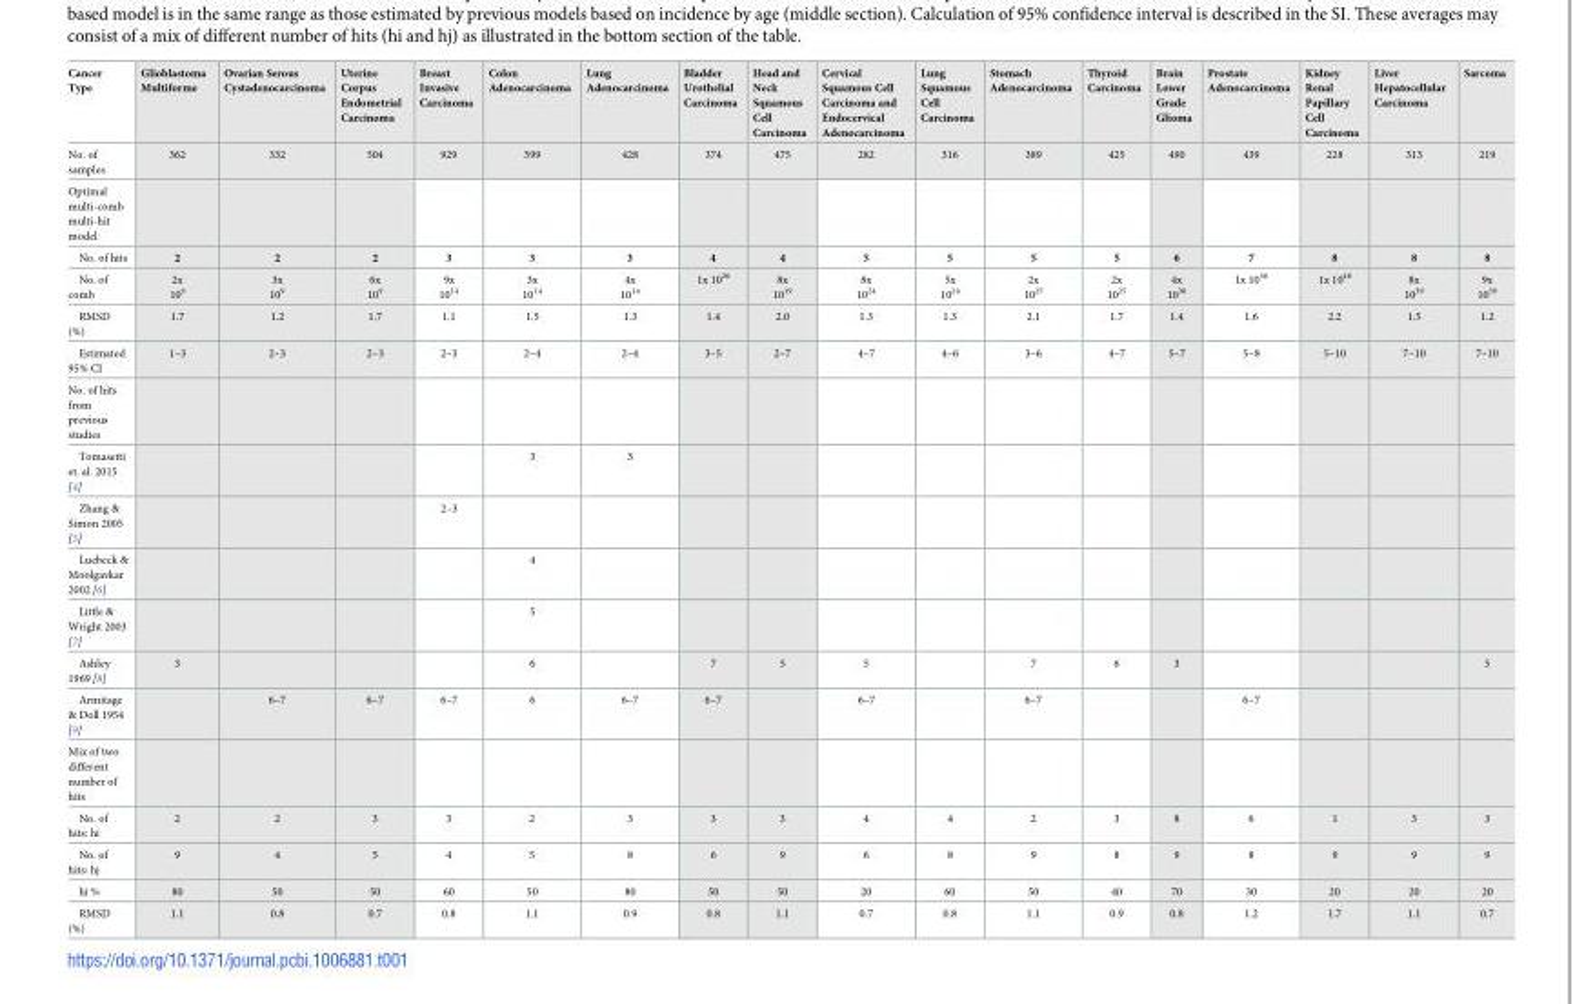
<table><thead><tr><td>Cancer Type</td><td>Glioblastoma Multiforme</td><td>Ovarian Serous Cystadenocarcinoma</td><td>Uterine Corpus Endometrial Carcinoma</td><td>Breast Invasive Carcinoma</td><td>Colon Adenocarcinoma</td><td>Lung Adenocarcinoma</td><td>Bladder Urothelial Carcinoma</td><td>Head and Neck Squamous Cell Carcinoma</td><td>Cervical Squamous Cell Carcinoma and Endocervical Adenocarcinoma</td><td>Lung Squamous Cell Carcinoma</td><td>Stomach Adenocarcinoma</td><td>Thyroid Carcinoma</td><td>Brain Lower Grade Glioma</td><td>Prostate Adenocarcinoma</td><td>Kidney Renal Papillary Cell Carcinoma</td><td>Liver Hepatocellular Carcinoma</td><td>Sarcoma</td></tr></thead><tbody><tr><td>No. of samples</td><td>362</td><td>332</td><td>504</td><td>929</td><td>399</td><td>428</td><td>374</td><td>475</td><td>282</td><td>316</td><td>389</td><td>425</td><td>490</td><td>439</td><td>228</td><td>313</td><td>219</td></tr><tr><td colspan="18">Optimal multi-comb multi-hit model</td></tr><tr><td>No. of hits</td><td>2</td><td>2</td><td>2</td><td>3</td><td>3</td><td>3</td><td>4</td><td>4</td><td>5</td><td>5</td><td>5</td><td>5</td><td>6</td><td>7</td><td>8</td><td>8</td><td>8</td></tr><tr><td>No. of comb</td><td>2x 10<sup>9</sup></td><td>3x 10<sup>9</sup></td><td>6x 10<sup>9</sup></td><td>9x 10<sup>14</sup></td><td>3x 10<sup>14</sup></td><td>4x 10<sup>14</sup></td><td>1x 10<sup>20</sup></td><td>8x 10<sup>19</sup></td><td>8x 10<sup>24</sup></td><td>5x 10<sup>24</sup></td><td>2x 10<sup>25</sup></td><td>2x 10<sup>25</sup></td><td>4x 10<sup>30</sup></td><td>1x 10<sup>36</sup></td><td>1x 10<sup>40</sup></td><td>8x 10<sup>39</sup></td><td>9x 10<sup>39</sup></td></tr><tr><td>RMSD (%)</td><td>1.7</td><td>1.2</td><td>1.7</td><td>1.1</td><td>1.5</td><td>1.3</td><td>1.4</td><td>2.0</td><td>1.3</td><td>1.3</td><td>2.1</td><td>1.7</td><td>1.4</td><td>1.6</td><td>2.2</td><td>1.5</td><td>1.2</td></tr><tr><td>Estimated 95% CI</td><td>1–3</td><td>2–3</td><td>2–3</td><td>2–3</td><td>2–4</td><td>2–4</td><td>3–5</td><td>2–7</td><td>4–7</td><td>4–6</td><td>3–6</td><td>4–7</td><td>5–7</td><td>5–8</td><td>5–10</td><td>7–10</td><td>7–10</td></tr><tr><td colspan="18">No. of hits from previous studies</td></tr><tr><td>Tomasetti et. al. 2015 [4]</td><td></td><td></td><td></td><td></td><td>3</td><td>3</td><td></td><td></td><td></td><td></td><td></td><td></td><td></td><td></td><td></td><td></td><td></td></tr><tr><td>Zhang &amp; Simon 2005 [5]</td><td></td><td></td><td></td><td>2–3</td><td></td><td></td><td></td><td></td><td></td><td></td><td></td><td></td><td></td><td></td><td></td><td></td><td></td></tr><tr><td>Luebeck &amp; Moolgavkar 2002 [6]</td><td></td><td></td><td></td><td></td><td>4</td><td></td><td></td><td></td><td></td><td></td><td></td><td></td><td></td><td></td><td></td><td></td><td></td></tr><tr><td>Little &amp; Wright 2003 [7]</td><td></td><td></td><td></td><td></td><td>5</td><td></td><td></td><td></td><td></td><td></td><td></td><td></td><td></td><td></td><td></td><td></td><td></td></tr><tr><td>Ashley 1969 [8]</td><td>3</td><td></td><td></td><td></td><td>6</td><td></td><td>7</td><td>5</td><td>5</td><td></td><td>7</td><td>6</td><td>3</td><td></td><td></td><td></td><td>5</td></tr><tr><td>Armitage &amp; Doll 1954 [9]</td><td></td><td>6–7</td><td>6–7</td><td>6–7</td><td>6</td><td>6–7</td><td>6–7</td><td></td><td>6–7</td><td></td><td>6–7</td><td></td><td></td><td>6–7</td><td></td><td></td><td></td></tr><tr><td colspan="18">Mix of two different number of hits</td></tr><tr><td>No. of hits: hi</td><td>2</td><td>2</td><td>3</td><td>3</td><td>2</td><td>3</td><td>3</td><td>3</td><td>4</td><td>4</td><td>2</td><td>3</td><td>8</td><td>6</td><td>1</td><td>3</td><td>3</td></tr><tr><td>No. of hits: hj</td><td>9</td><td>4</td><td>5</td><td>4</td><td>5</td><td>8</td><td>6</td><td>9</td><td>6</td><td>8</td><td>9</td><td>8</td><td>9</td><td>8</td><td>9</td><td>9</td><td>9</td></tr><tr><td>hi %</td><td>80</td><td>50</td><td>50</td><td>60</td><td>50</td><td>80</td><td>50</td><td>50</td><td>20</td><td>60</td><td>50</td><td>40</td><td>70</td><td>30</td><td>20</td><td>20</td><td>20</td></tr><tr><td>RMSD (%)</td><td>1.1</td><td>0.8</td><td>0.7</td><td>0.8</td><td>1.1</td><td>0.9</td><td>0.8</td><td>1.1</td><td>0.7</td><td>0.8</td><td>1.1</td><td>0.9</td><td>0.8</td><td>1.2</td><td>1.7</td><td>1.1</td><td>0.7</td></tr></tbody></table>